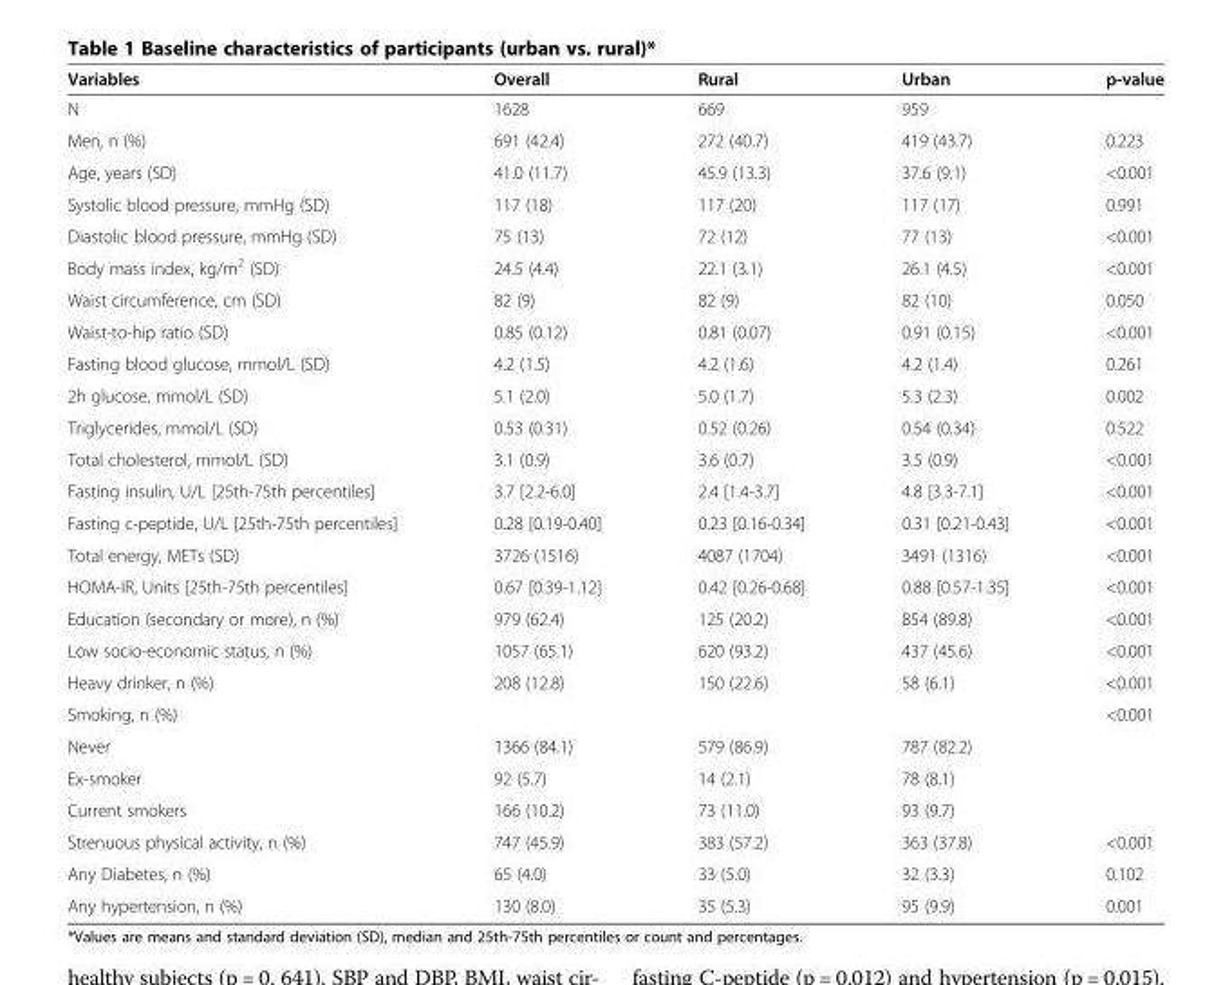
<table><thead><tr><td>Variables</td><td>Overall</td><td>Rural</td><td>Urban</td><td>p-value</td></tr></thead><tbody><tr><td>N</td><td>1628</td><td>669</td><td>959</td><td></td></tr><tr><td>Men, n (%)</td><td>691 (42.4)</td><td>272 (40.7)</td><td>419 (43.7)</td><td>0.223</td></tr><tr><td>Age, years (SD)</td><td>41.0 (11.7)</td><td>45.9 (13.3)</td><td>37.6 (9.1)</td><td>&lt;0.001</td></tr><tr><td>Systolic blood pressure, mmHg (SD)</td><td>117 (18)</td><td>117 (20)</td><td>117 (17)</td><td>0.991</td></tr><tr><td>Diastolic blood pressure, mmHg (SD)</td><td>75 (13)</td><td>72 (12)</td><td>77 (13)</td><td>&lt;0.001</td></tr><tr><td>Body mass index, kg/m<sup>2</sup> (SD)</td><td>24.5 (4.4)</td><td>22.1 (3.1)</td><td>26.1 (4.5)</td><td>&lt;0.001</td></tr><tr><td>Waist circumference, cm (SD)</td><td>82 (9)</td><td>82 (9)</td><td>82 (10)</td><td>0.050</td></tr><tr><td>Waist-to-hip ratio (SD)</td><td>0.85 (0.12)</td><td>0.81 (0.07)</td><td>0.91 (0.15)</td><td>&lt;0.001</td></tr><tr><td>Fasting blood glucose, mmol/L (SD)</td><td>4.2 (1.5)</td><td>4.2 (1.6)</td><td>4.2 (1.4)</td><td>0.261</td></tr><tr><td>2h glucose, mmol/L (SD)</td><td>5.1 (2.0)</td><td>5.0 (1.7)</td><td>5.3 (2.3)</td><td>0.002</td></tr><tr><td>Triglycerides, mmol/L (SD)</td><td>0.53 (0.31)</td><td>0.52 (0.26)</td><td>0.54 (0.34)</td><td>0.522</td></tr><tr><td>Total cholesterol, mmol/L (SD)</td><td>3.1 (0.9)</td><td>3.6 (0.7)</td><td>3.5 (0.9)</td><td>&lt;0.001</td></tr><tr><td>Fasting insulin, U/L [25th-75th percentiles]</td><td>3.7 [2.2-6.0]</td><td>2.4 [1.4-3.7]</td><td>4.8 [3.3-7.1]</td><td>&lt;0.001</td></tr><tr><td>Fasting c-peptide, U/L [25th-75th percentiles]</td><td>0.28 [0.19-0.40]</td><td>0.23 [0.16-0.34]</td><td>0.31 [0.21-0.43]</td><td>&lt;0.001</td></tr><tr><td>Total energy, METs (SD)</td><td>3726 (1516)</td><td>4087 (1704)</td><td>3491 (1316)</td><td>&lt;0.001</td></tr><tr><td>HOMA-IR, Units [25th-75th percentiles]</td><td>0.67 [0.39-1.12]</td><td>0.42 [0.26-0.68]</td><td>0.88 [0.57-1.35]</td><td>&lt;0.001</td></tr><tr><td>Education (secondary or more), n (%)</td><td>979 (62.4)</td><td>125 (20.2)</td><td>854 (89.8)</td><td>&lt;0.001</td></tr><tr><td>Low socio-economic status, n (%)</td><td>1057 (65.1)</td><td>620 (93.2)</td><td>437 (45.6)</td><td>&lt;0.001</td></tr><tr><td>Heavy drinker, n (%)</td><td>208 (12.8)</td><td>150 (22.6)</td><td>58 (6.1)</td><td>&lt;0.001</td></tr><tr><td>Smoking, n (%)</td><td></td><td></td><td></td><td>&lt;0.001</td></tr><tr><td>Never</td><td>1366 (84.1)</td><td>579 (86.9)</td><td>787 (82.2)</td><td></td></tr><tr><td>Ex-smoker</td><td>92 (5.7)</td><td>14 (2.1)</td><td>78 (8.1)</td><td></td></tr><tr><td>Current smokers</td><td>166 (10.2)</td><td>73 (11.0)</td><td>93 (9.7)</td><td></td></tr><tr><td>Strenuous physical activity, n (%)</td><td>747 (45.9)</td><td>383 (57.2)</td><td>363 (37.8)</td><td>&lt;0.001</td></tr><tr><td>Any Diabetes, n (%)</td><td>65 (4.0)</td><td>33 (5.0)</td><td>32 (3.3)</td><td>0.102</td></tr><tr><td>Any hypertension, n (%)</td><td>130 (8.0)</td><td>35 (5.3)</td><td>95 (9.9)</td><td>0.001</td></tr></tbody></table>